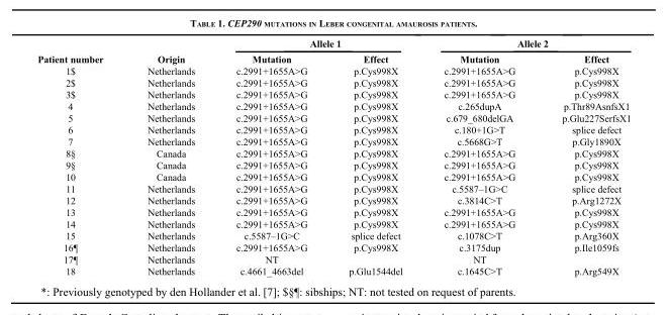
<table><thead><tr><td rowspan="2">Patient number</td><td rowspan="2">Origin</td><td colspan="2">Allele 1</td><td colspan="2">Allele 2</td></tr><tr><td>Mutation</td><td>Effect</td><td>Mutation</td><td>Effect</td></tr></thead><tbody><tr><td>1$</td><td>Netherlands</td><td>c.2991+1655A&gt;G</td><td>p.Cys998X</td><td>c.2991+1655A&gt;G</td><td>p.Cys998X</td></tr><tr><td>2$</td><td>Netherlands</td><td>c.2991+1655A&gt;G</td><td>p.Cys998X</td><td>c.2991+1655A&gt;G</td><td>p.Cys998X</td></tr><tr><td>3$</td><td>Netherlands</td><td>c.2991+1655A&gt;G</td><td>p.Cys998X</td><td>c.2991+1655A&gt;G</td><td>p.Cys998X</td></tr><tr><td>4</td><td>Netherlands</td><td>c.2991+1655A&gt;G</td><td>p.Cys998X</td><td>c.265dupA</td><td>p.Thr89AsnfsX1</td></tr><tr><td>5</td><td>Netherlands</td><td>c.2991+1655A&gt;G</td><td>p.Cys998X</td><td>c.679_680delGA</td><td>p.Glu227SerfsX1</td></tr><tr><td>6</td><td>Netherlands</td><td>c.2991+1655A&gt;G</td><td>p.Cys998X</td><td>c.180+1G&gt;T</td><td>splice defect</td></tr><tr><td>7</td><td>Netherlands</td><td>c.2991+1655A&gt;G</td><td>p.Cys998X</td><td>c.5668G&gt;T</td><td>p.Gly1890X</td></tr><tr><td>8§</td><td>Canada</td><td>c.2991+1655A&gt;G</td><td>p.Cys998X</td><td>c.2991+1655A&gt;G</td><td>p.Cys998X</td></tr><tr><td>9§</td><td>Canada</td><td>c.2991+1655A&gt;G</td><td>p.Cys998X</td><td>c.2991+1655A&gt;G</td><td>p.Cys998X</td></tr><tr><td>10</td><td>Canada</td><td>c.2991+1655A&gt;G</td><td>p.Cys998X</td><td>c.2991+1655A&gt;G</td><td>p.Cys998X</td></tr><tr><td>11</td><td>Netherlands</td><td>c.2991+1655A&gt;G</td><td>p.Cys998X</td><td>c.5587–1G&gt;C</td><td>splice defect</td></tr><tr><td>12</td><td>Netherlands</td><td>c.2991+1655A&gt;G</td><td>p.Cys998X</td><td>c.3814C&gt;T</td><td>p.Arg1272X</td></tr><tr><td>13</td><td>Netherlands</td><td>c.2991+1655A&gt;G</td><td>p.Cys998X</td><td>c.2991+1655A&gt;G</td><td>p.Cys998X</td></tr><tr><td>14</td><td>Netherlands</td><td>c.2991+1655A&gt;G</td><td>p.Cys998X</td><td>c.2991+1655A&gt;G</td><td>p.Cys998X</td></tr><tr><td>15</td><td>Netherlands</td><td>c.5587–1G&gt;C</td><td>splice defect</td><td>c.1078C&gt;T</td><td>p.Arg360X</td></tr><tr><td>16¶</td><td>Netherlands</td><td>c.2991+1655A&gt;G</td><td>p.Cys998X</td><td>c.3175dup</td><td>p.Ile1059fs</td></tr><tr><td>17¶</td><td>Netherlands</td><td>NT</td><td></td><td>NT</td><td></td></tr><tr><td>18</td><td>Netherlands</td><td>c.4661_4663del</td><td>p.Glu1544del</td><td>c.1645C&gt;T</td><td>p.Arg549X</td></tr></tbody></table>